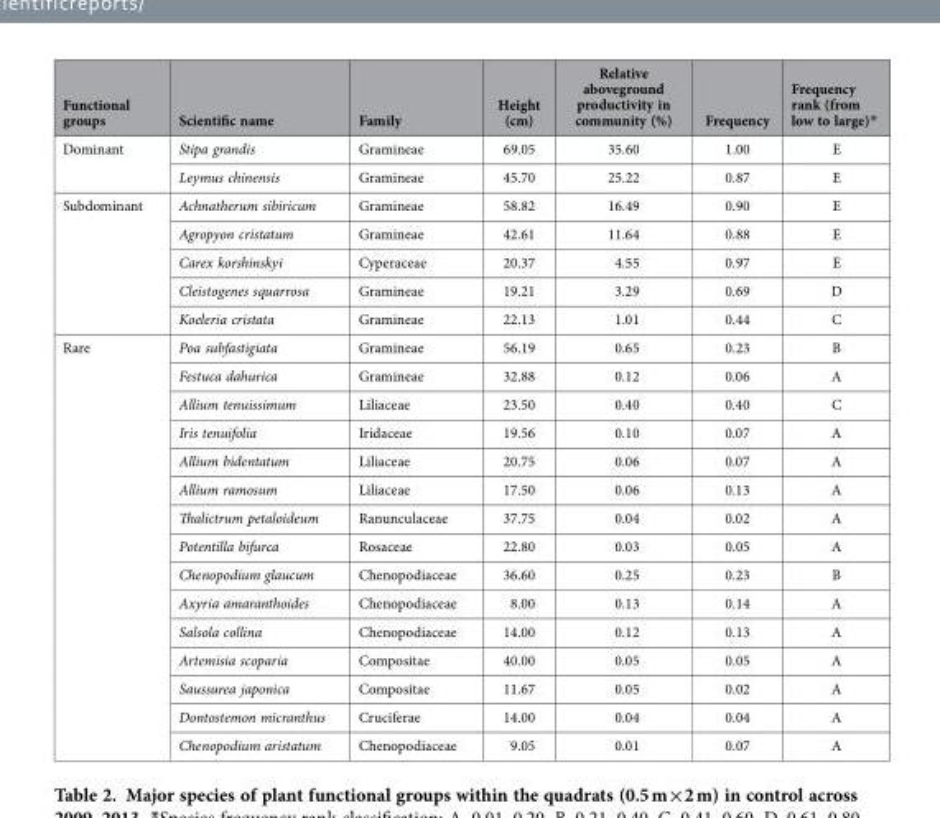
<table><thead><tr><td>Functional groups</td><td>Scientific name</td><td>Family</td><td>Height (cm)</td><td>Relative aboveground productivity in community (%)</td><td>Frequency</td><td>Frequency rank (from low to large)∗</td></tr></thead><tbody><tr><td rowspan="2">Dominant</td><td>Stipa grandis</td><td>Gramineae</td><td>69.05</td><td>35.60</td><td>1.00</td><td>E</td></tr><tr><td>Leymus chinensis</td><td>Gramineae</td><td>45.70</td><td>25.22</td><td>0.87</td><td>E</td></tr><tr><td rowspan="5">Subdominant</td><td>Achnatherum sibiricum</td><td>Gramineae</td><td>58.82</td><td>16.49</td><td>0.90</td><td>E</td></tr><tr><td>Agropyon cristatum</td><td>Gramineae</td><td>42.61</td><td>11.64</td><td>0.88</td><td>E</td></tr><tr><td>Carex korshinskyi</td><td>Cyperaceae</td><td>20.37</td><td>4.55</td><td>0.97</td><td>E</td></tr><tr><td>Cleistogenes squarrosa</td><td>Gramineae</td><td>19.21</td><td>3.29</td><td>0.69</td><td>D</td></tr><tr><td>Koeleria cristata</td><td>Gramineae</td><td>22.13</td><td>1.01</td><td>0.44</td><td>C</td></tr><tr><td rowspan="15">Rare</td><td>Poa subfastigiata</td><td>Gramineae</td><td>56.19</td><td>0.65</td><td>0.23</td><td>B</td></tr><tr><td>Festuca dahurica</td><td>Gramineae</td><td>32.88</td><td>0.12</td><td>0.06</td><td>A</td></tr><tr><td>Allium tenuissimum</td><td>Liliaceae</td><td>23.50</td><td>0.40</td><td>0.40</td><td>C</td></tr><tr><td>Iris tenuifolia</td><td>Iridaceae</td><td>19.56</td><td>0.10</td><td>0.07</td><td>A</td></tr><tr><td>Allium bidentatum</td><td>Liliaceae</td><td>20.75</td><td>0.06</td><td>0.07</td><td>A</td></tr><tr><td>Allium ramosum</td><td>Liliaceae</td><td>17.50</td><td>0.06</td><td>0.13</td><td>A</td></tr><tr><td>Thalictrum petaloideum</td><td>Ranunculaceae</td><td>37.75</td><td>0.04</td><td>0.02</td><td>A</td></tr><tr><td>Potentilla bifurca</td><td>Rosaceae</td><td>22.80</td><td>0.03</td><td>0.05</td><td>A</td></tr><tr><td>Chenopodium glaucum</td><td>Chenopodiaceae</td><td>36.60</td><td>0.25</td><td>0.23</td><td>B</td></tr><tr><td>Axyria amaranthoides</td><td>Chenopodiaceae</td><td>8.00</td><td>0.13</td><td>0.14</td><td>A</td></tr><tr><td>Salsola collina</td><td>Chenopodiaceae</td><td>14.00</td><td>0.12</td><td>0.13</td><td>A</td></tr><tr><td>Artemisia scoparia</td><td>Compositae</td><td>40.00</td><td>0.05</td><td>0.05</td><td>A</td></tr><tr><td>Saussurea japonica</td><td>Compositae</td><td>11.67</td><td>0.05</td><td>0.02</td><td>A</td></tr><tr><td>Dontostemon micranthus</td><td>Cruciferae</td><td>14.00</td><td>0.04</td><td>0.04</td><td>A</td></tr><tr><td>Chenopodium aristatum</td><td>Chenopodiaceae</td><td>9.05</td><td>0.01</td><td>0.07</td><td>A</td></tr></tbody></table>